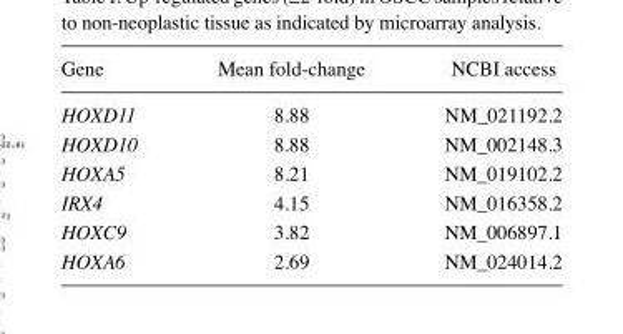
<table><thead><tr><td>Gene</td><td>Mean fold-change</td><td>NCBI access</td></tr></thead><tbody><tr><td>HOXD11</td><td>8.88</td><td>NM_021192.2</td></tr><tr><td>HOXD10</td><td>8.88</td><td>NM_002148.3</td></tr><tr><td>HOXA5</td><td>8.21</td><td>NM_019102.2</td></tr><tr><td>IRX4</td><td>4.15</td><td>NM_016358.2</td></tr><tr><td>HOXC9</td><td>3.82</td><td>NM_006897.1</td></tr><tr><td>HOXA6</td><td>2.69</td><td>NM_024014.2</td></tr></tbody></table>